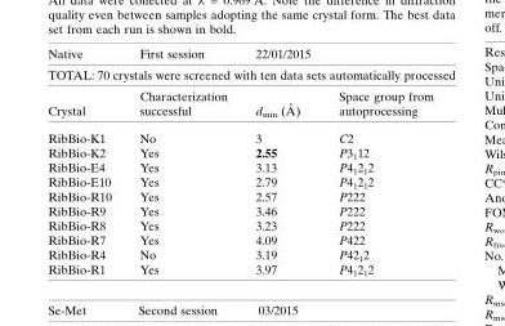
<table><thead><tr><td>Native</td><td>First session</td><td>22/01/2015</td><td></td></tr><tr><td colspan="4">TOTAL: 70 crystals were screened with ten data sets automatically processed</td></tr><tr><td>Crystal</td><td>Characterization successful</td><td>dmin (A˚ )</td><td>Space group from autoprocessing</td></tr></thead><tbody><tr><td>RibBio-K1</td><td>No</td><td>3</td><td>C2</td></tr><tr><td>RibBio-K2</td><td>Yes</td><td>2.55</td><td>P3<sub>1</sub>12</td></tr><tr><td>RibBio-E4</td><td>Yes</td><td>3.13</td><td>P4<sub>1</sub>2<sub>1</sub>2</td></tr><tr><td>RibBio-E10</td><td>Yes</td><td>2.79</td><td>P4<sub>1</sub>2<sub>1</sub>2</td></tr><tr><td>RibBio-R10</td><td>Yes</td><td>2.57</td><td>P222</td></tr><tr><td>RibBio-R9</td><td>Yes</td><td>3.46</td><td>P222</td></tr><tr><td>RibBio-R8</td><td>Yes</td><td>3.23</td><td>P222</td></tr><tr><td>RibBio-R7</td><td>Yes</td><td>4.09</td><td>P422</td></tr><tr><td>RibBio-R4</td><td>No</td><td>3.19</td><td>P42<sub>1</sub>2</td></tr><tr><td>RibBio-R1</td><td>Yes</td><td>3.97</td><td>P4<sub>1</sub>2<sub>1</sub>2</td></tr></tbody></table>